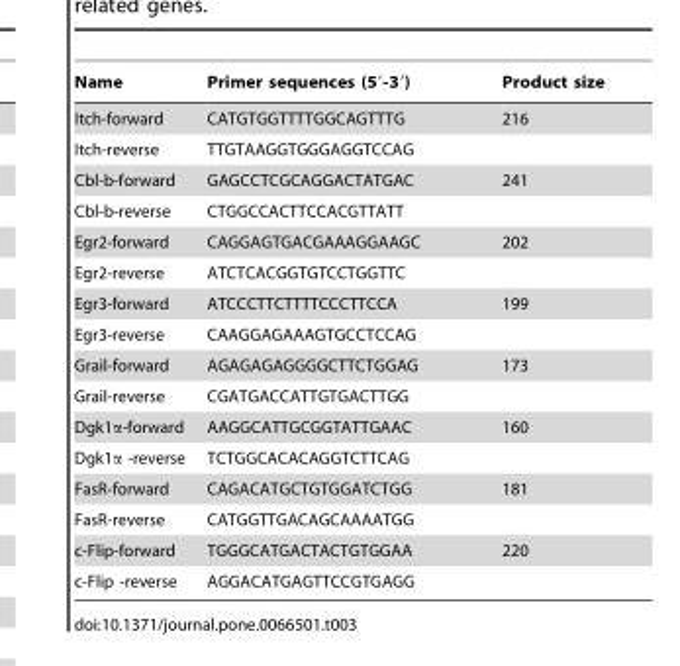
<table><thead><tr><td>Name</td><td>Primer sequences (5′-3′)</td><td>Product size</td></tr></thead><tbody><tr><td>Itch-forward</td><td>CATGTGGTTTTGGCAGTTTG</td><td>216</td></tr><tr><td>Itch-reverse</td><td>TTGTAAGGTGGGAGGTCCAG</td><td></td></tr><tr><td>Cbl-b-forward</td><td>GAGCCTCGCAGGACTATGAC</td><td>241</td></tr><tr><td>Cbl-b-reverse</td><td>CTGGCCACTTCCACGTTATT</td><td></td></tr><tr><td>Egr2-forward</td><td>CAGGAGTGACGAAAGGAAGC</td><td>202</td></tr><tr><td>Egr2-reverse</td><td>ATCTCACGGTGTCCTGGTTC</td><td></td></tr><tr><td>Egr3-forward</td><td>ATCCCTTCTTTTCCCTTCCA</td><td>199</td></tr><tr><td>Egr3-reverse</td><td>CAAGGAGAAAGTGCCTCCAG</td><td></td></tr><tr><td>Grail-forward</td><td>AGAGAGAGGGGCTTCTGGAG</td><td>173</td></tr><tr><td>Grail-reverse</td><td>CGATGACCATTGTGACTTGG</td><td></td></tr><tr><td>Dgk1α-forward</td><td>AAGGCATTGCGGTATTGAAC</td><td>160</td></tr><tr><td>Dgk1α -reverse</td><td>TCTGGCACACAGGTCTTCAG</td><td></td></tr><tr><td>FasR-forward</td><td>CAGACATGCTGTGGATCTGG</td><td>181</td></tr><tr><td>FasR-reverse</td><td>CATGGTTGACAGCAAAATGG</td><td></td></tr><tr><td>c-Flip-forward</td><td>TGGGCATGACTACTGTGGAA</td><td>220</td></tr><tr><td>c-Flip -reverse</td><td>AGGACATGAGTTCCGTGAGG</td><td></td></tr></tbody></table>